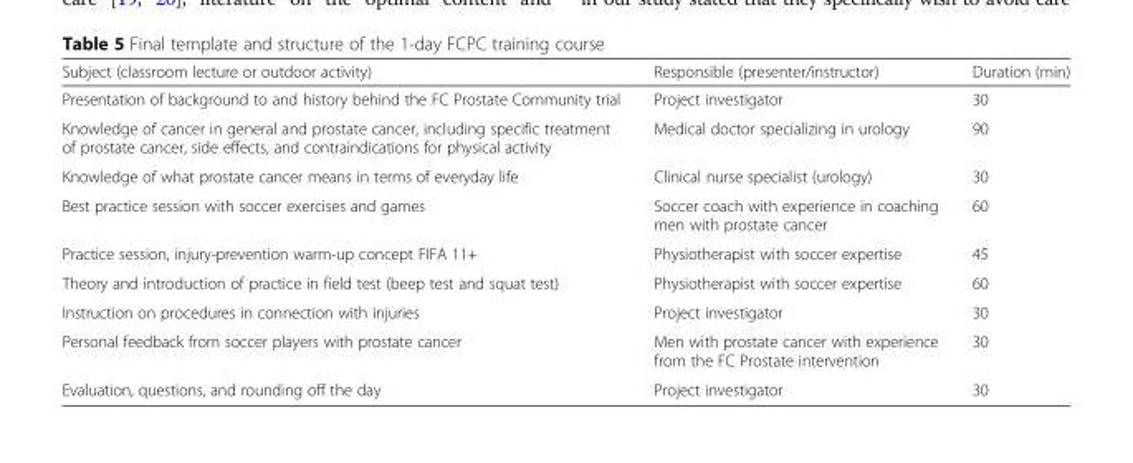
<table><thead><tr><td>Subject (classroom lecture or outdoor activity)</td><td>Responsible (presenter/instructor)</td><td>Duration (min)</td></tr></thead><tbody><tr><td>Presentation of background to and history behind the FC Prostate Community trial</td><td>Project investigator</td><td>30</td></tr><tr><td>Knowledge of cancer in general and prostate cancer, including specific treatment of prostate cancer, side effects, and contraindications for physical activity</td><td>Medical doctor specializing in urology</td><td>90</td></tr><tr><td>Knowledge of what prostate cancer means in terms of everyday life</td><td>Clinical nurse specialist (urology)</td><td>30</td></tr><tr><td>Best practice session with soccer exercises and games</td><td>Soccer coach with experience in coaching men with prostate cancer</td><td>60</td></tr><tr><td>Practice session, injury-prevention warm-up concept FIFA 11+</td><td>Physiotherapist with soccer expertise</td><td>45</td></tr><tr><td>Theory and introduction of practice in field test (beep test and squat test)</td><td>Physiotherapist with soccer expertise</td><td>60</td></tr><tr><td>Instruction on procedures in connection with injuries</td><td>Project investigator</td><td>30</td></tr><tr><td>Personal feedback from soccer players with prostate cancer</td><td>Men with prostate cancer with experience from the FC Prostate intervention</td><td>30</td></tr><tr><td>Evaluation, questions, and rounding off the day</td><td>Project investigator</td><td>30</td></tr></tbody></table>